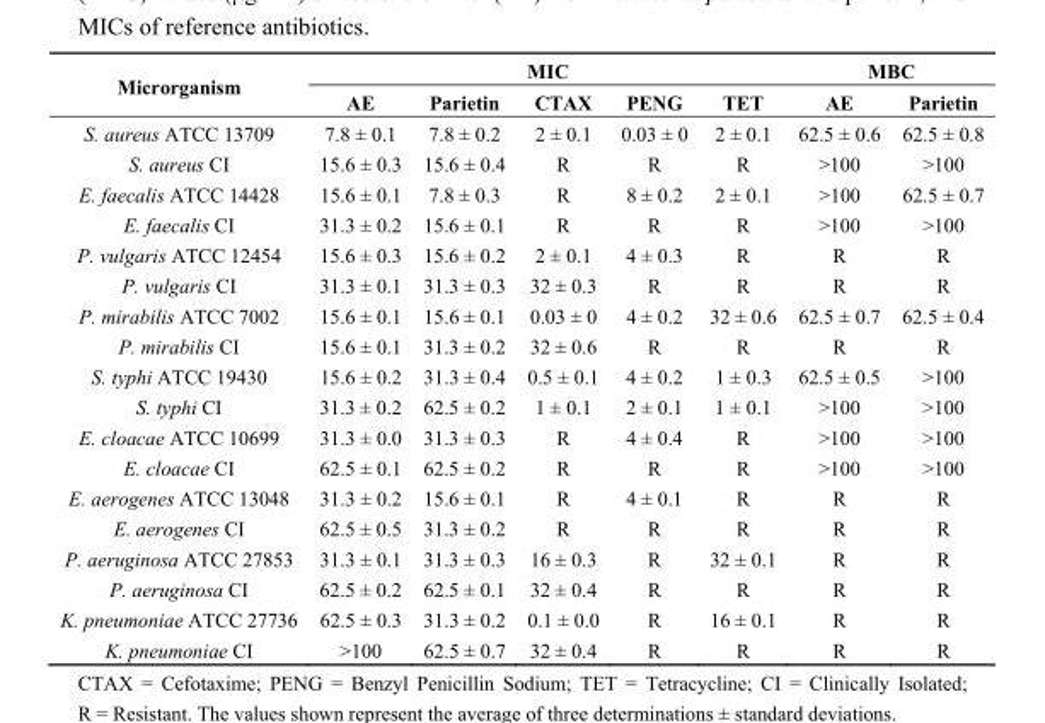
<table><thead><tr><td rowspan="2">Microrganism</td><td colspan="5">MIC</td><td colspan="2">MBC</td></tr><tr><td>AE</td><td>Parietin</td><td>CTAX</td><td>PENG</td><td>TET</td><td>AE</td><td>Parietin</td></tr></thead><tbody><tr><td>S. aureus ATCC 13709</td><td>7.8 ± 0.1</td><td>7.8 ± 0.2</td><td>2 ± 0.1</td><td>0.03 ± 0</td><td>2 ± 0.1</td><td>62.5 ± 0.6</td><td>62.5 ± 0.8</td></tr><tr><td>S. aureus CI</td><td>15.6 ± 0.3</td><td>15.6 ± 0.4</td><td>R</td><td>R</td><td>R</td><td>&gt;100</td><td>&gt;100</td></tr><tr><td>E. faecalis ATCC 14428</td><td>15.6 ± 0.1</td><td>7.8 ± 0.3</td><td>R</td><td>8 ± 0.2</td><td>2 ± 0.1</td><td>&gt;100</td><td>62.5 ± 0.7</td></tr><tr><td>E. faecalis CI</td><td>31.3 ± 0.2</td><td>15.6 ± 0.1</td><td>R</td><td>R</td><td>R</td><td>&gt;100</td><td>&gt;100</td></tr><tr><td>P. vulgaris ATCC 12454</td><td>15.6 ± 0.3</td><td>15.6 ± 0.2</td><td>2 ± 0.1</td><td>4 ± 0.3</td><td>R</td><td>R</td><td>R</td></tr><tr><td>P. vulgaris CI</td><td>31.3 ± 0.1</td><td>31.3 ± 0.3</td><td>32 ± 0.3</td><td>R</td><td>R</td><td>R</td><td>R</td></tr><tr><td>P. mirabilis ATCC 7002</td><td>15.6 ± 0.1</td><td>15.6 ± 0.1</td><td>0.03 ± 0</td><td>4 ± 0.2</td><td>32 ± 0.6</td><td>62.5 ± 0.7</td><td>62.5 ± 0.4</td></tr><tr><td>P. mirabilis CI</td><td>15.6 ± 0.1</td><td>31.3 ± 0.2</td><td>32 ± 0.6</td><td>R</td><td>R</td><td>R</td><td>R</td></tr><tr><td>S. typhi ATCC 19430</td><td>15.6 ± 0.2</td><td>31.3 ± 0.4</td><td>0.5 ± 0.1</td><td>4 ± 0.2</td><td>1 ± 0.3</td><td>62.5 ± 0.5</td><td>&gt;100</td></tr><tr><td>S. typhi CI</td><td>31.3 ± 0.2</td><td>62.5 ± 0.2</td><td>1 ± 0.1</td><td>2 ± 0.1</td><td>1 ± 0.1</td><td>&gt;100</td><td>&gt;100</td></tr><tr><td>E. cloacae ATCC 10699</td><td>31.3 ± 0.0</td><td>31.3 ± 0.3</td><td>R</td><td>4 ± 0.4</td><td>R</td><td>&gt;100</td><td>&gt;100</td></tr><tr><td>E. cloacae CI</td><td>62.5 ± 0.1</td><td>62.5 ± 0.2</td><td>R</td><td>R</td><td>R</td><td>&gt;100</td><td>&gt;100</td></tr><tr><td>E. aerogenes ATCC 13048</td><td>31.3 ± 0.2</td><td>15.6 ± 0.1</td><td>R</td><td>4 ± 0.1</td><td>R</td><td>R</td><td>R</td></tr><tr><td>E. aerogenes CI</td><td>62.5 ± 0.5</td><td>31.3 ± 0.2</td><td>R</td><td>R</td><td>R</td><td>R</td><td>R</td></tr><tr><td>P. aeruginosa ATCC 27853</td><td>31.3 ± 0.1</td><td>31.3 ± 0.3</td><td>16 ± 0.3</td><td>R</td><td>32 ± 0.1</td><td>R</td><td>R</td></tr><tr><td>P. aeruginosa CI</td><td>62.5 ± 0.2</td><td>62.5 ± 0.1</td><td>32 ± 0.4</td><td>R</td><td>R</td><td>R</td><td>R</td></tr><tr><td>K. pneumoniae ATCC 27736</td><td>62.5 ± 0.3</td><td>31.3 ± 0.2</td><td>0.1 ± 0.0</td><td>R</td><td>16 ± 0.1</td><td>R</td><td>R</td></tr><tr><td>K. pneumoniae CI</td><td>&gt;100</td><td>62.5 ± 0.7</td><td>32 ± 0.4</td><td>R</td><td>R</td><td>R</td><td>R</td></tr></tbody></table>